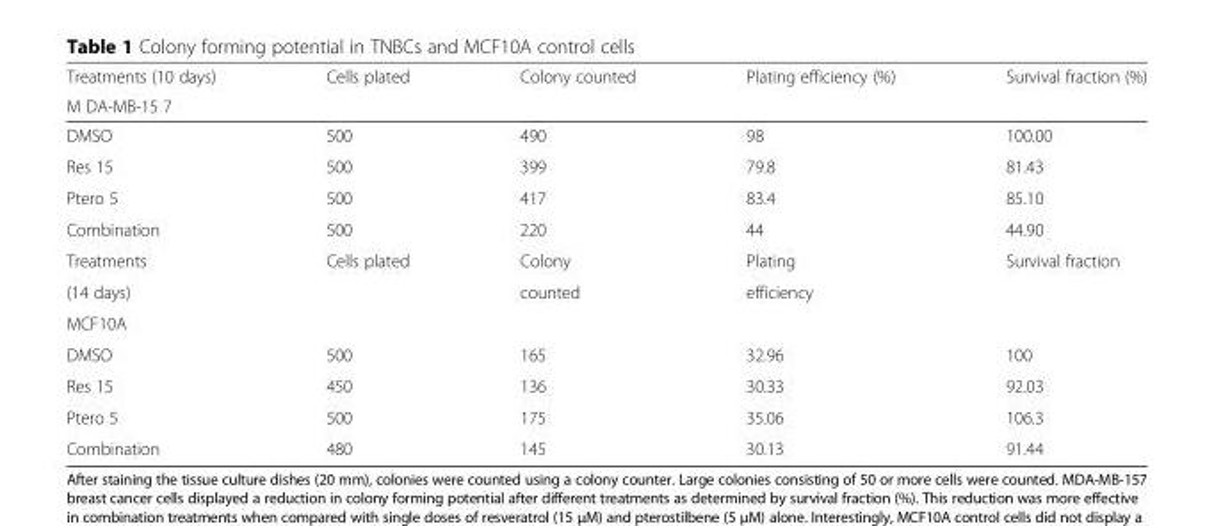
<table><thead><tr><td rowspan="2">Treatments (10 days) M DA-MB-15 7</td><td rowspan="2">Cells plated</td><td rowspan="2">Colony counted</td><td rowspan="2">Plating efficiency (%)</td><td rowspan="2">Survival fraction (%)</td></tr><tr></tr></thead><tbody><tr><td>DMSO</td><td>500</td><td>490</td><td>98</td><td>100.00</td></tr><tr><td>Res 15</td><td>500</td><td>399</td><td>79.8</td><td>81.43</td></tr><tr><td>Ptero 5</td><td>500</td><td>417</td><td>83.4</td><td>85.10</td></tr><tr><td>Combination</td><td>500</td><td>220</td><td>44</td><td>44.90</td></tr><tr><td>Treatments</td><td>Cells plated</td><td>Colony</td><td>Plating</td><td>Survival fraction</td></tr><tr><td>(14 days)</td><td></td><td>counted</td><td>efficiency</td><td></td></tr><tr><td colspan="5">MCF10A</td></tr><tr><td>DMSO</td><td>500</td><td>165</td><td>32.96</td><td>100</td></tr><tr><td>Res 15</td><td>450</td><td>136</td><td>30.33</td><td>92.03</td></tr><tr><td>Ptero 5</td><td>500</td><td>175</td><td>35.06</td><td>106.3</td></tr><tr><td>Combination</td><td>480</td><td>145</td><td>30.13</td><td>91.44</td></tr></tbody></table>